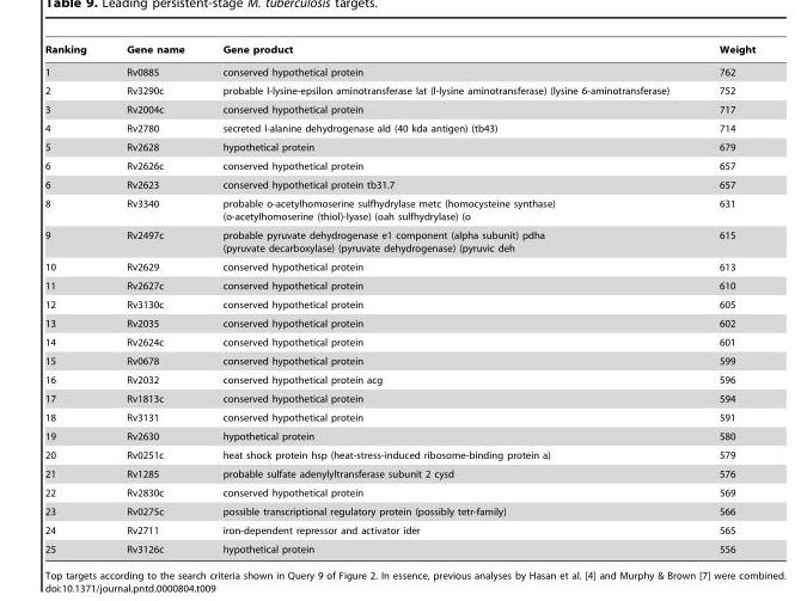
<table><thead><tr><td>Ranking</td><td>Gene name</td><td>Gene product</td><td>Weight</td></tr></thead><tbody><tr><td>1</td><td>Rv0885</td><td>conserved hypothetical protein</td><td>762</td></tr><tr><td>2</td><td>Rv3290c</td><td>probable l-lysine-epsilon aminotransferase lat (l-lysine aminotransferase) (lysine 6-aminotransferase)</td><td>752</td></tr><tr><td>3</td><td>Rv2004c</td><td>conserved hypothetical protein</td><td>717</td></tr><tr><td>4</td><td>Rv2780</td><td>secreted l-alanine dehydrogenase ald (40 kda antigen) (tb43)</td><td>714</td></tr><tr><td>5</td><td>Rv2628</td><td>hypothetical protein</td><td>679</td></tr><tr><td>6</td><td>Rv2626c</td><td>conserved hypothetical protein</td><td>657</td></tr><tr><td>6</td><td>Rv2623</td><td>conserved hypothetical protein tb31.7</td><td>657</td></tr><tr><td>8</td><td>Rv3340</td><td>probable o-acetylhomoserine sulfhydrylase metc (homocysteine synthase) (o-acetylhomoserine (thiol)-lyase) (oah sulfhydrylase) (o</td><td>631</td></tr><tr><td>9</td><td>Rv2497c</td><td>probable pyruvate dehydrogenase e1 component (alpha subunit) pdha (pyruvate decarboxylase) (pyruvate dehydrogenase) (pyruvic deh</td><td>615</td></tr><tr><td>10</td><td>Rv2629</td><td>conserved hypothetical protein</td><td>613</td></tr><tr><td>11</td><td>Rv2627c</td><td>conserved hypothetical protein</td><td>610</td></tr><tr><td>12</td><td>Rv3130c</td><td>conserved hypothetical protein</td><td>605</td></tr><tr><td>13</td><td>Rv2035</td><td>conserved hypothetical protein</td><td>602</td></tr><tr><td>14</td><td>Rv2624c</td><td>conserved hypothetical protein</td><td>601</td></tr><tr><td>15</td><td>Rv0678</td><td>conserved hypothetical protein</td><td>599</td></tr><tr><td>16</td><td>Rv2032</td><td>conserved hypothetical protein acg</td><td>596</td></tr><tr><td>17</td><td>Rv1813c</td><td>conserved hypothetical protein</td><td>594</td></tr><tr><td>18</td><td>Rv3131</td><td>conserved hypothetical protein</td><td>591</td></tr><tr><td>19</td><td>Rv2630</td><td>hypothetical protein</td><td>580</td></tr><tr><td>20</td><td>Rv0251c</td><td>heat shock protein hsp (heat-stress-induced ribosome-binding protein a)</td><td>579</td></tr><tr><td>21</td><td>Rv1285</td><td>probable sulfate adenylyltransferase subunit 2 cysd</td><td>576</td></tr><tr><td>22</td><td>Rv2830c</td><td>conserved hypothetical protein</td><td>569</td></tr><tr><td>23</td><td>Rv0275c</td><td>possible transcriptional regulatory protein (possibly tetr-family)</td><td>566</td></tr><tr><td>24</td><td>Rv2711</td><td>iron-dependent repressor and activator ider</td><td>565</td></tr><tr><td>25</td><td>Rv3126c</td><td>hypothetical protein</td><td>556</td></tr></tbody></table>